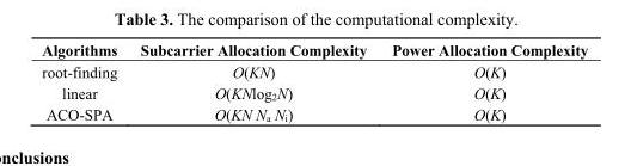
<table><thead><tr><td>Algorithms</td><td>Subcarrier Allocation Complexity</td><td>Power Allocation Complexity</td></tr></thead><tbody><tr><td>root-finding</td><td>O(KN)</td><td>O(K)</td></tr><tr><td>linear</td><td>O(KNlog<sub>2</sub>N)</td><td>O(K)</td></tr><tr><td>ACO-SPA</td><td>O(KN N<sub>a</sub> N<sub>i</sub>)</td><td>O(K)</td></tr></tbody></table>